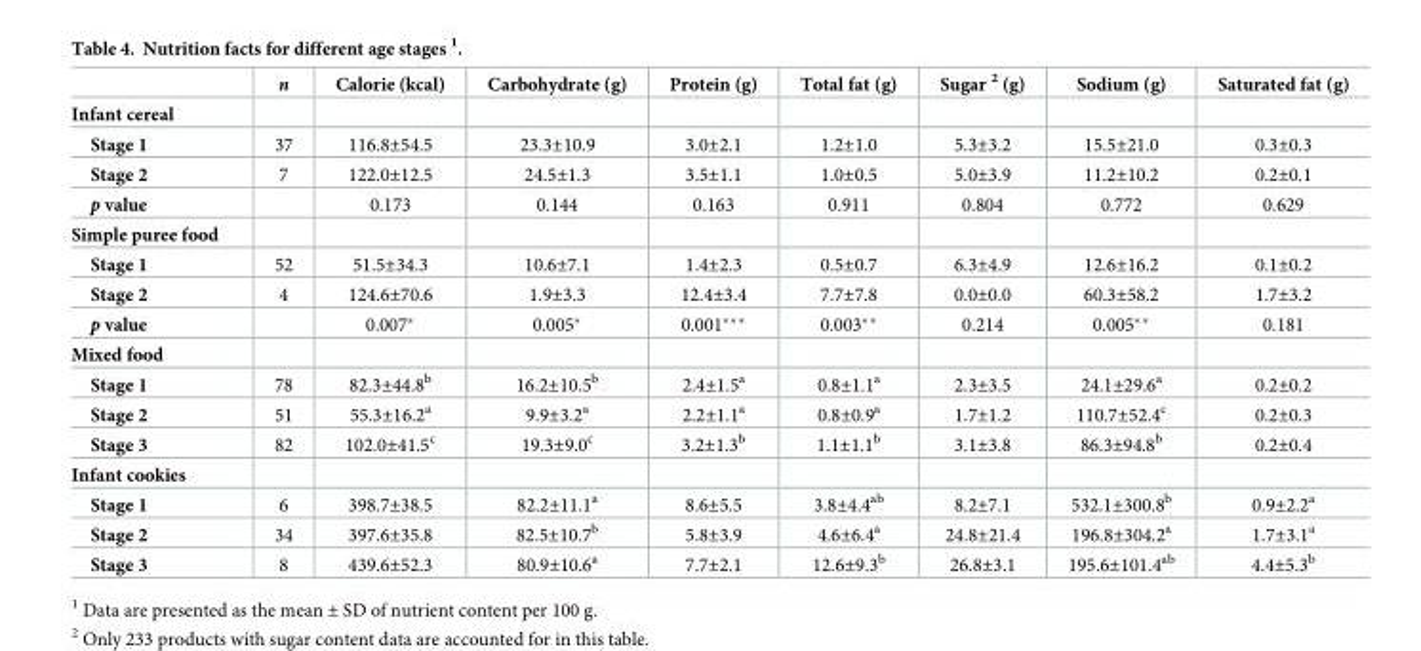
<table><thead><tr><td></td><td>n</td><td>Calorie (kcal)</td><td>Carbohydrate (g)</td><td>Protein (g)</td><td>Total fat (g)</td><td>Sugar <sup>2</sup> (g)</td><td>Sodium (g)</td><td>Saturated fat (g)</td></tr></thead><tbody><tr><td colspan="9">Infant cereal</td></tr><tr><td>Stage 1</td><td>37</td><td>116.8±54.5</td><td>23.3±10.9</td><td>3.0±2.1</td><td>1.2±1.0</td><td>5.3±3.2</td><td>15.5±21.0</td><td>0.3±0.3</td></tr><tr><td>Stage 2</td><td>7</td><td>122.0±12.5</td><td>24.5±1.3</td><td>3.5±1.1</td><td>1.0±0.5</td><td>5.0±3.9</td><td>11.2±10.2</td><td>0.2±0.1</td></tr><tr><td>p value</td><td></td><td>0.173</td><td>0.144</td><td>0.163</td><td>0.911</td><td>0.804</td><td>0.772</td><td>0.629</td></tr><tr><td colspan="9">Simple puree food</td></tr><tr><td>Stage 1</td><td>52</td><td>51.5±34.3</td><td>10.6±7.1</td><td>1.4±2.3</td><td>0.5±0.7</td><td>6.3±4.9</td><td>12.6±16.2</td><td>0.1±0.2</td></tr><tr><td>Stage 2</td><td>4</td><td>124.6±70.6</td><td>1.9±3.3</td><td>12.4±3.4</td><td>7.7±7.8</td><td>0.0±0.0</td><td>60.3±58.2</td><td>1.7±3.2</td></tr><tr><td>p value</td><td></td><td>0.007*</td><td>0.005*</td><td>0.001***</td><td>0.003**</td><td>0.214</td><td>0.005**</td><td>0.181</td></tr><tr><td colspan="9">Mixed food</td></tr><tr><td>Stage 1</td><td>78</td><td>82.3±44.8<sup>b</sup></td><td>16.2±10.5<sup>b</sup></td><td>2.4±1.5<sup>a</sup></td><td>0.8±1.1<sup>a</sup></td><td>2.3±3.5</td><td>24.1±29.6<sup>a</sup></td><td>0.2±0.2</td></tr><tr><td>Stage 2</td><td>51</td><td>55.3±16.2<sup>a</sup></td><td>9.9±3.2<sup>a</sup></td><td>2.2±1.1<sup>a</sup></td><td>0.8±0.9<sup>a</sup></td><td>1.7±1.2</td><td>110.7±52.4<sup>c</sup></td><td>0.2±0.3</td></tr><tr><td>Stage 3</td><td>82</td><td>102.0±41.5<sup>c</sup></td><td>19.3±9.0<sup>c</sup></td><td>3.2±1.3<sup>b</sup></td><td>1.1±1.1<sup>b</sup></td><td>3.1±3.8</td><td>86.3±94.8<sup>b</sup></td><td>0.2±0.4</td></tr><tr><td colspan="9">Infant cookies</td></tr><tr><td>Stage 1</td><td>6</td><td>398.7±38.5</td><td>82.2±11.1<sup>a</sup></td><td>8.6±5.5</td><td>3.8±4.4<sup>ab</sup></td><td>8.2±7.1</td><td>532.1±300.8<sup>b</sup></td><td>0.9±2.2<sup>a</sup></td></tr><tr><td>Stage 2</td><td>34</td><td>397.6±35.8</td><td>82.5±10.7<sup>b</sup></td><td>5.8±3.9</td><td>4.6±6.4<sup>a</sup></td><td>24.8±21.4</td><td>196.8±304.2<sup>a</sup></td><td>1.7±3.1<sup>a</sup></td></tr><tr><td>Stage 3</td><td>8</td><td>439.6±52.3</td><td>80.9±10.6<sup>a</sup></td><td>7.7±2.1</td><td>12.6±9.3<sup>b</sup></td><td>26.8±3.1</td><td>195.6±101.4<sup>ab</sup></td><td>4.4±5.3<sup>b</sup></td></tr></tbody></table>